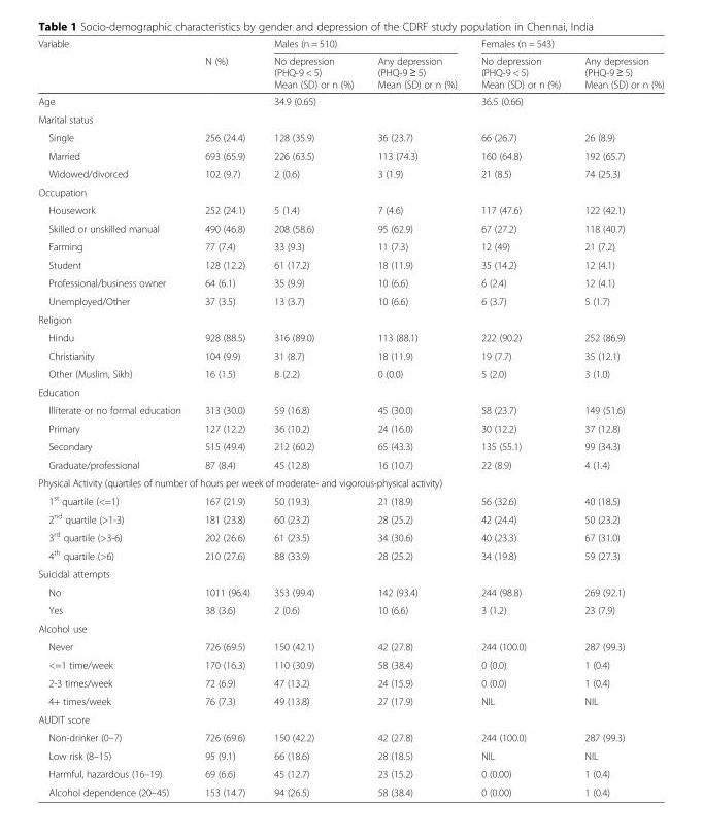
<table><thead><tr><td rowspan="2">Variable</td><td rowspan="2">N (%)</td><td colspan="2">Males (n = 510)</td><td colspan="2">Females (n = 543)</td></tr><tr><td>No depression (PHQ-9 &lt; 5) Mean (SD) or n (%)</td><td>Any depression (PHQ-9 ≥ 5) Mean (SD) or n (%)</td><td>No depression (PHQ-9 &lt; 5) Mean (SD) or n (%)</td><td>Any depression (PHQ-9 ≥ 5) Mean (SD) or n (%)</td></tr></thead><tbody><tr><td>Age</td><td></td><td colspan="2">34.9 (0.65)</td><td colspan="2">36.5 (0.66)</td></tr><tr><td colspan="6">Marital status</td></tr><tr><td>Single</td><td>256 (24.4)</td><td>128 (35.9)</td><td>36 (23.7)</td><td>66 (26.7)</td><td>26 (8.9)</td></tr><tr><td>Married</td><td>693 (65.9)</td><td>226 (63.5)</td><td>113 (74.3)</td><td>160 (64.8)</td><td>192 (65.7)</td></tr><tr><td>Widowed/divorced</td><td>102 (9.7)</td><td>2 (0.6)</td><td>3 (1.9)</td><td>21 (8.5)</td><td>74 (25.3)</td></tr><tr><td colspan="6">Occupation</td></tr><tr><td>Housework</td><td>252 (24.1)</td><td>5 (1.4)</td><td>7 (4.6)</td><td>117 (47.6)</td><td>122 (42.1)</td></tr><tr><td>Skilled or unskilled manual</td><td>490 (46.8)</td><td>208 (58.6)</td><td>95 (62.9)</td><td>67 (27.2)</td><td>118 (40.7)</td></tr><tr><td>Farming</td><td>77 (7.4)</td><td>33 (9.3)</td><td>11 (7.3)</td><td>12 (49)</td><td>21 (7.2)</td></tr><tr><td>Student</td><td>128 (12.2)</td><td>61 (17.2)</td><td>18 (11.9)</td><td>35 (14.2)</td><td>12 (4.1)</td></tr><tr><td>Professional/business owner</td><td>64 (6.1)</td><td>35 (9.9)</td><td>10 (6.6)</td><td>6 (2.4)</td><td>12 (4.1)</td></tr><tr><td>Unemployed/Other</td><td>37 (3.5)</td><td>13 (3.7)</td><td>10 (6.6)</td><td>6 (3.7)</td><td>5 (1.7)</td></tr><tr><td colspan="6">Religion</td></tr><tr><td>Hindu</td><td>928 (88.5)</td><td>316 (89.0)</td><td>113 (88.1)</td><td>222 (90.2)</td><td>252 (86.9)</td></tr><tr><td>Christianity</td><td>104 (9.9)</td><td>31 (8.7)</td><td>18 (11.9)</td><td>19 (7.7)</td><td>35 (12.1)</td></tr><tr><td>Other (Muslim, Sikh)</td><td>16 (1.5)</td><td>8 (2.2)</td><td>0 (0.0)</td><td>5 (2.0)</td><td>3 (1.0)</td></tr><tr><td colspan="6">Education</td></tr><tr><td>Illiterate or no formal education</td><td>313 (30.0)</td><td>59 (16.8)</td><td>45 (30.0)</td><td>58 (23.7)</td><td>149 (51.6)</td></tr><tr><td>Primary</td><td>127 (12.2)</td><td>36 (10.2)</td><td>24 (16.0)</td><td>30 (12.2)</td><td>37 (12.8)</td></tr><tr><td>Secondary</td><td>515 (49.4)</td><td>212 (60.2)</td><td>65 (43.3)</td><td>135 (55.1)</td><td>99 (34.3)</td></tr><tr><td>Graduate/professional</td><td>87 (8.4)</td><td>45 (12.8)</td><td>16 (10.7)</td><td>22 (8.9)</td><td>4 (1.4)</td></tr><tr><td colspan="6">Physical Activity (quartiles of number of hours per week of moderate- and vigorous-physical activity)</td></tr><tr><td>1<sup>st</sup> quartile (&lt;=1)</td><td>167 (21.9)</td><td>50 (19.3)</td><td>21 (18.9)</td><td>56 (32.6)</td><td>40 (18.5)</td></tr><tr><td>2<sup>nd</sup> quartile (&gt;1-3)</td><td>181 (23.8)</td><td>60 (23.2)</td><td>28 (25.2)</td><td>42 (24.4)</td><td>50 (23.2)</td></tr><tr><td>3<sup>rd</sup> quartile (&gt;3-6)</td><td>202 (26.6)</td><td>61 (23.5)</td><td>34 (30.6)</td><td>40 (23.3)</td><td>67 (31.0)</td></tr><tr><td>4<sup>th</sup> quartile (&gt;6)</td><td>210 (27.6)</td><td>88 (33.9)</td><td>28 (25.2)</td><td>34 (19.8)</td><td>59 (27.3)</td></tr><tr><td colspan="6">Suicidal attempts</td></tr><tr><td>No</td><td>1011 (96.4)</td><td>353 (99.4)</td><td>142 (93.4)</td><td>244 (98.8)</td><td>269 (92.1)</td></tr><tr><td>Yes</td><td>38 (3.6)</td><td>2 (0.6)</td><td>10 (6.6)</td><td>3 (1.2)</td><td>23 (7.9)</td></tr><tr><td colspan="6">Alcohol use</td></tr><tr><td>Never</td><td>726 (69.5)</td><td>150 (42.1)</td><td>42 (27.8)</td><td>244 (100.0)</td><td>287 (99.3)</td></tr><tr><td>&lt;=1 time/week</td><td>170 (16.3)</td><td>110 (30.9)</td><td>58 (38.4)</td><td>0 (0.0)</td><td>1 (0.4)</td></tr><tr><td>2-3 times/week</td><td>72 (6.9)</td><td>47 (13.2)</td><td>24 (15.9)</td><td>0 (0.0)</td><td>1 (0.4)</td></tr><tr><td>4+ times/week</td><td>76 (7.3)</td><td>49 (13.8)</td><td>27 (17.9)</td><td>NIL</td><td>NIL</td></tr><tr><td colspan="6">AUDIT score</td></tr><tr><td>Non-drinker (0–7)</td><td>726 (69.6)</td><td>150 (42.2)</td><td>42 (27.8)</td><td>244 (100.0)</td><td>287 (99.3)</td></tr><tr><td>Low risk (8–15)</td><td>95 (9.1)</td><td>66 (18.6)</td><td>28 (18.5)</td><td>NIL</td><td>NIL</td></tr><tr><td>Harmful, hazardous (16–19)</td><td>69 (6.6)</td><td>45 (12.7)</td><td>23 (15.2)</td><td>0 (0.00)</td><td>1 (0.4)</td></tr><tr><td>Alcohol dependence (20–45)</td><td>153 (14.7)</td><td>94 (26.5)</td><td>58 (38.4)</td><td>0 (0.00)</td><td>1 (0.4)</td></tr></tbody></table>